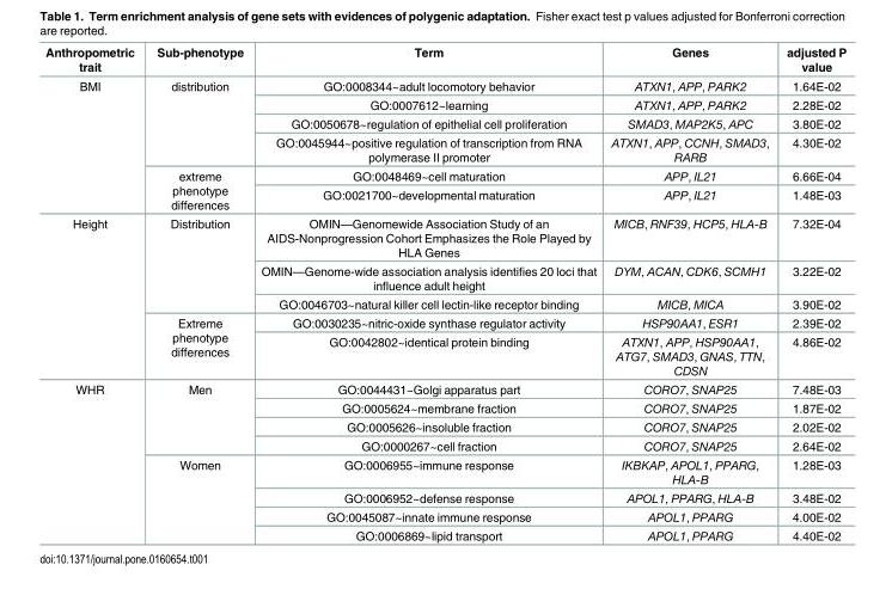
<table><thead><tr><td>Anthropometric trait</td><td>Sub-phenotype</td><td>Term</td><td>Genes</td><td>adjusted P value</td></tr></thead><tbody><tr><td rowspan="6">BMI</td><td rowspan="4">distribution</td><td>GO:0008344~adult locomotory behavior</td><td>ATXN1, APP, PARK2</td><td>1.64E-02</td></tr><tr><td>GO:0007612~learning</td><td>ATXN1, APP, PARK2</td><td>2.28E-02</td></tr><tr><td>GO:0050678~regulation of epithelial cell proliferation</td><td>SMAD3, MAP2K5, APC</td><td>3.80E-02</td></tr><tr><td>GO:0045944~positive regulation of transcription from RNA polymerase II promoter</td><td>ATXN1, APP, CCNH, SMAD3, RARB</td><td>4.30E-02</td></tr><tr><td rowspan="2">extreme phenotype differences</td><td>GO:0048469~cell maturation</td><td>APP, IL21</td><td>6.66E-04</td></tr><tr><td>GO:0021700~developmental maturation</td><td>APP, IL21</td><td>1.48E-03</td></tr><tr><td rowspan="5">Height</td><td rowspan="3">Distribution</td><td>OMIN—Genomewide Association Study of an AIDS-Nonprogression Cohort Emphasizes the Role Played by HLA Genes</td><td>MICB, RNF39, HCP5, HLA-B</td><td>7.32E-04</td></tr><tr><td>OMIN—Genome-wide association analysis identifies 20 loci that influence adult height</td><td>DYM, ACAN, CDK6, SCMH1</td><td>3.22E-02</td></tr><tr><td>GO:0046703~natural killer cell lectin-like receptor binding</td><td>MICB, MICA</td><td>3.90E-02</td></tr><tr><td rowspan="2">Extreme phenotype differences</td><td>GO:0030235~nitric-oxide synthase regulator activity</td><td>HSP90AA1, ESR1</td><td>2.39E-02</td></tr><tr><td>GO:0042802~identical protein binding</td><td>ATXN1, APP, HSP90AA1, ATG7, SMAD3, GNAS, TTN, CDSN</td><td>4.86E-02</td></tr><tr><td rowspan="8">WHR</td><td rowspan="4">Men</td><td>GO:0044431~Golgi apparatus part</td><td>CORO7, SNAP25</td><td>7.48E-03</td></tr><tr><td>GO:0005624~membrane fraction</td><td>CORO7, SNAP25</td><td>1.87E-02</td></tr><tr><td>GO:0005626~insoluble fraction</td><td>CORO7, SNAP25</td><td>2.02E-02</td></tr><tr><td>GO:0000267~cell fraction</td><td>CORO7, SNAP25</td><td>2.64E-02</td></tr><tr><td rowspan="4">Women</td><td>GO:0006955~immune response</td><td>IKBKAP, APOL1, PPARG, HLA-B</td><td>1.28E-03</td></tr><tr><td>GO:0006952~defense response</td><td>APOL1, PPARG, HLA-B</td><td>3.48E-02</td></tr><tr><td>GO:0045087~innate immune response</td><td>APOL1, PPARG</td><td>4.00E-02</td></tr><tr><td>GO:0006869~lipid transport</td><td>APOL1, PPARG</td><td>4.40E-02</td></tr></tbody></table>